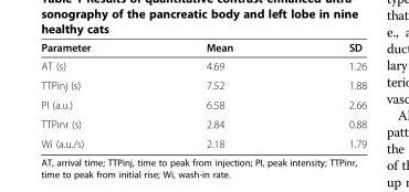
<table><thead><tr><td>Parameter</td><td>Mean</td><td>SD</td></tr></thead><tbody><tr><td>AT (s)</td><td>4.69</td><td>1.26</td></tr><tr><td>TTPinj (s)</td><td>7.52</td><td>1.88</td></tr><tr><td>PI (a.u.)</td><td>6.58</td><td>2.66</td></tr><tr><td>TTPinr (s)</td><td>2.84</td><td>0.88</td></tr><tr><td>Wi (a.u./s)</td><td>2.18</td><td>1.79</td></tr></tbody></table>